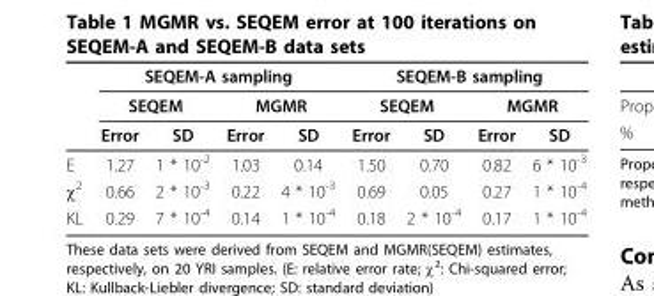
<table><thead><tr><td rowspan="3"></td><td colspan="4">SEQEM-A sampling</td><td colspan="4">SEQEM-B sampling</td></tr><tr><td colspan="2">SEQEM</td><td colspan="2">MGMR</td><td colspan="2">SEQEM</td><td colspan="2">MGMR</td></tr><tr><td>Error</td><td>SD</td><td>Error</td><td>SD</td><td>Error</td><td>SD</td><td>Error</td><td>SD</td></tr></thead><tbody><tr><td>E</td><td>1.27</td><td>1 * 10<sup>-2</sup></td><td>1.03</td><td>0.14</td><td>1.50</td><td>0.70</td><td>0.82</td><td>6 * 10<sup>-3</sup></td></tr><tr><td>χ<sup>2</sup></td><td>0.66</td><td>2 * 10<sup>-3</sup></td><td>0.22</td><td>4 * 10<sup>-3</sup></td><td>0.69</td><td>0.05</td><td>0.27</td><td>1 * 10<sup>-4</sup></td></tr><tr><td>KL</td><td>0.29</td><td>7 * 10<sup>-4</sup></td><td>0.14</td><td>1 * 10<sup>-4</sup></td><td>0.18</td><td>2 * 10<sup>-4</sup></td><td>0.17</td><td>1 * 10<sup>-4</sup></td></tr></tbody></table>